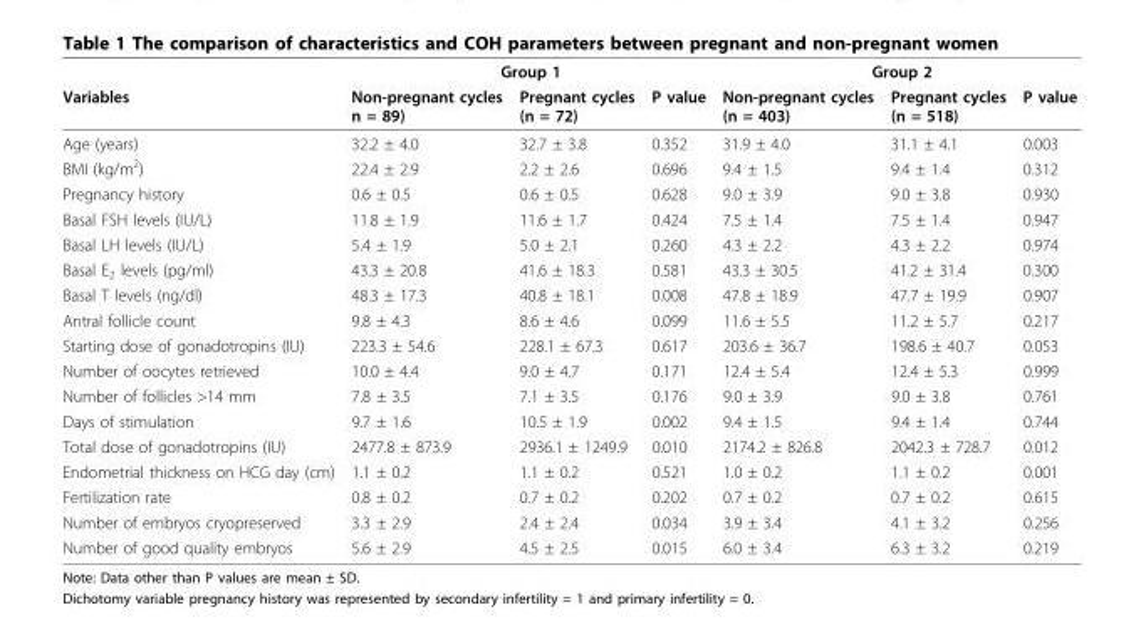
<table><thead><tr><td rowspan="2">Variables</td><td colspan="3">Group 1</td><td colspan="3">Group 2</td></tr><tr><td>Non-pregnant cycles n = 89)</td><td>Pregnant cycles (n = 72)</td><td>P value</td><td>Non-pregnant cycles (n = 403)</td><td>Pregnant cycles (n = 518)</td><td>P value</td></tr></thead><tbody><tr><td>Age (years)</td><td>32.2 ± 4.0</td><td>32.7 ± 3.8</td><td>0.352</td><td>31.9 ± 4.0</td><td>31.1 ± 4.1</td><td>0.003</td></tr><tr><td>BMI (kg/m<sup>2</sup>)</td><td>22.4 ± 2.9</td><td>2.2 ± 2.6</td><td>0.696</td><td>9.4 ± 1.5</td><td>9.4 ± 1.4</td><td>0.312</td></tr><tr><td>Pregnancy history</td><td>0.6 ± 0.5</td><td>0.6 ± 0.5</td><td>0.628</td><td>9.0 ± 3.9</td><td>9.0 ± 3.8</td><td>0.930</td></tr><tr><td>Basal FSH levels (IU/L)</td><td>11.8 ± 1.9</td><td>11.6 ± 1.7</td><td>0.424</td><td>7.5 ± 1.4</td><td>7.5 ± 1.4</td><td>0.947</td></tr><tr><td>Basal LH levels (IU/L)</td><td>5.4 ± 1.9</td><td>5.0 ± 2.1</td><td>0.260</td><td>4.3 ± 2.2</td><td>4.3 ± 2.2</td><td>0.974</td></tr><tr><td>Basal E<sub>2</sub> levels (pg/ml)</td><td>43.3 ± 20.8</td><td>41.6 ± 18.3</td><td>0.581</td><td>43.3 ± 30.5</td><td>41.2 ± 31.4</td><td>0.300</td></tr><tr><td>Basal T levels (ng/dl)</td><td>48.3 ± 17.3</td><td>40.8 ± 18.1</td><td>0.008</td><td>47.8 ± 18.9</td><td>47.7 ± 19.9</td><td>0.907</td></tr><tr><td>Antral follicle count</td><td>9.8 ± 4.3</td><td>8.6 ± 4.6</td><td>0.099</td><td>11.6 ± 5.5</td><td>11.2 ± 5.7</td><td>0.217</td></tr><tr><td>Starting dose of gonadotropins (IU)</td><td>223.3 ± 54.6</td><td>228.1 ± 67.3</td><td>0.617</td><td>203.6 ± 36.7</td><td>198.6 ± 40.7</td><td>0.053</td></tr><tr><td>Number of oocytes retrieved</td><td>10.0 ± 4.4</td><td>9.0 ± 4.7</td><td>0.171</td><td>12.4 ± 5.4</td><td>12.4 ± 5.3</td><td>0.999</td></tr><tr><td>Number of follicles &gt;14 mm</td><td>7.8 ± 3.5</td><td>7.1 ± 3.5</td><td>0.176</td><td>9.0 ± 3.9</td><td>9.0 ± 3.8</td><td>0.761</td></tr><tr><td>Days of stimulation</td><td>9.7 ± 1.6</td><td>10.5 ± 1.9</td><td>0.002</td><td>9.4 ± 1.5</td><td>9.4 ± 1.4</td><td>0.744</td></tr><tr><td>Total dose of gonadotropins (IU)</td><td>2477.8 ± 873.9</td><td>2936.1 ± 1249.9</td><td>0.010</td><td>2174.2 ± 826.8</td><td>2042.3 ± 728.7</td><td>0.012</td></tr><tr><td>Endometrial thickness on HCG day (cm)</td><td>1.1 ± 0.2</td><td>1.1 ± 0.2</td><td>0.521</td><td>1.0 ± 0.2</td><td>1.1 ± 0.2</td><td>0.001</td></tr><tr><td>Fertilization rate</td><td>0.8 ± 0.2</td><td>0.7 ± 0.2</td><td>0.202</td><td>0.7 ± 0.2</td><td>0.7 ± 0.2</td><td>0.615</td></tr><tr><td>Number of embryos cryopreserved</td><td>3.3 ± 2.9</td><td>2.4 ± 2.4</td><td>0.034</td><td>3.9 ± 3.4</td><td>4.1 ± 3.2</td><td>0.256</td></tr><tr><td>Number of good quality embryos</td><td>5.6 ± 2.9</td><td>4.5 ± 2.5</td><td>0.015</td><td>6.0 ± 3.4</td><td>6.3 ± 3.2</td><td>0.219</td></tr></tbody></table>